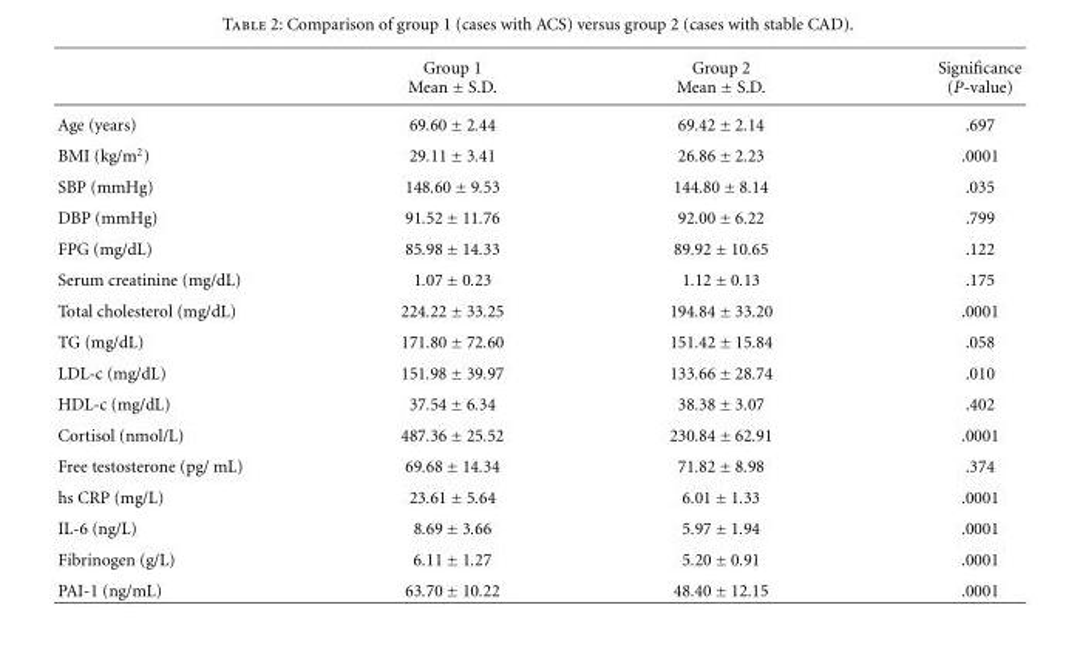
<table><thead><tr><td rowspan="2"></td><td rowspan="2">Group 1 Mean ± S.D.</td><td rowspan="2">Group 2 Mean ± S.D.</td><td rowspan="2">Significance (P-value)</td></tr><tr></tr></thead><tbody><tr><td>Age (years)</td><td>69.60 ± 2.44</td><td>69.42 ± 2.14</td><td>.697</td></tr><tr><td>BMI (kg/m<sup>2</sup>)</td><td>29.11 ± 3.41</td><td>26.86 ± 2.23</td><td>.0001</td></tr><tr><td>SBP (mmHg)</td><td>148.60 ± 9.53</td><td>144.80 ± 8.14</td><td>.035</td></tr><tr><td>DBP (mmHg)</td><td>91.52 ± 11.76</td><td>92.00 ± 6.22</td><td>.799</td></tr><tr><td>FPG (mg/dL)</td><td>85.98 ± 14.33</td><td>89.92 ± 10.65</td><td>.122</td></tr><tr><td>Serum creatinine (mg/dL)</td><td>1.07 ± 0.23</td><td>1.12 ± 0.13</td><td>.175</td></tr><tr><td>Total cholesterol (mg/dL)</td><td>224.22 ± 33.25</td><td>194.84 ± 33.20</td><td>.0001</td></tr><tr><td>TG (mg/dL)</td><td>171.80 ± 72.60</td><td>151.42 ± 15.84</td><td>.058</td></tr><tr><td>LDL-c (mg/dL)</td><td>151.98 ± 39.97</td><td>133.66 ± 28.74</td><td>.010</td></tr><tr><td>HDL-c (mg/dL)</td><td>37.54 ± 6.34</td><td>38.38 ± 3.07</td><td>.402</td></tr><tr><td>Cortisol (nmol/L)</td><td>487.36 ± 25.52</td><td>230.84 ± 62.91</td><td>.0001</td></tr><tr><td>Free testosterone (pg/ mL)</td><td>69.68 ± 14.34</td><td>71.82 ± 8.98</td><td>.374</td></tr><tr><td>hs CRP (mg/L)</td><td>23.61 ± 5.64</td><td>6.01 ± 1.33</td><td>.0001</td></tr><tr><td>IL-6 (ng/L)</td><td>8.69 ± 3.66</td><td>5.97 ± 1.94</td><td>.0001</td></tr><tr><td>Fibrinogen (g/L)</td><td>6.11 ± 1.27</td><td>5.20 ± 0.91</td><td>.0001</td></tr><tr><td>PAI-1 (ng/mL)</td><td>63.70 ± 10.22</td><td>48.40 ± 12.15</td><td>.0001</td></tr></tbody></table>